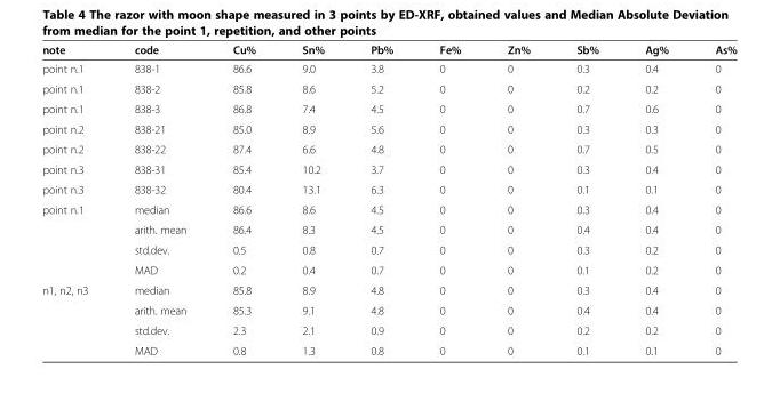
<table><thead><tr><td>note</td><td>code</td><td>Cu%</td><td>Sn%</td><td>Pb%</td><td>Fe%</td><td>Zn%</td><td>Sb%</td><td>Ag%</td><td>As%</td></tr></thead><tbody><tr><td>point n.1</td><td>838-1</td><td>86.6</td><td>9.0</td><td>3.8</td><td>0</td><td>0</td><td>0.3</td><td>0.4</td><td>0</td></tr><tr><td>point n.1</td><td>838-2</td><td>85.8</td><td>8.6</td><td>5.2</td><td>0</td><td>0</td><td>0.2</td><td>0.2</td><td>0</td></tr><tr><td>point n.1</td><td>838-3</td><td>86.8</td><td>7.4</td><td>4.5</td><td>0</td><td>0</td><td>0.7</td><td>0.6</td><td>0</td></tr><tr><td>point n.2</td><td>838-21</td><td>85.0</td><td>8.9</td><td>5.6</td><td>0</td><td>0</td><td>0.3</td><td>0.3</td><td>0</td></tr><tr><td>point n.2</td><td>838-22</td><td>87.4</td><td>6.6</td><td>4.8</td><td>0</td><td>0</td><td>0.7</td><td>0.5</td><td>0</td></tr><tr><td>point n.3</td><td>838-31</td><td>85.4</td><td>10.2</td><td>3.7</td><td>0</td><td>0</td><td>0.3</td><td>0.4</td><td>0</td></tr><tr><td>point n.3</td><td>838-32</td><td>80.4</td><td>13.1</td><td>6.3</td><td>0</td><td>0</td><td>0.1</td><td>0.1</td><td>0</td></tr><tr><td rowspan="4">point n.1</td><td>median</td><td>86.6</td><td>8.6</td><td>4.5</td><td>0</td><td>0</td><td>0.3</td><td>0.4</td><td>0</td></tr><tr><td>arith. mean</td><td>86.4</td><td>8.3</td><td>4.5</td><td>0</td><td>0</td><td>0.4</td><td>0.4</td><td>0</td></tr><tr><td>std.dev.</td><td>0.5</td><td>0.8</td><td>0.7</td><td>0</td><td>0</td><td>0.3</td><td>0.2</td><td>0</td></tr><tr><td>MAD</td><td>0.2</td><td>0.4</td><td>0.7</td><td>0</td><td>0</td><td>0.1</td><td>0.2</td><td>0</td></tr><tr><td rowspan="4">n1, n2, n3</td><td>median</td><td>85.8</td><td>8.9</td><td>4.8</td><td>0</td><td>0</td><td>0.3</td><td>0.4</td><td>0</td></tr><tr><td>arith. mean</td><td>85.3</td><td>9.1</td><td>4.8</td><td>0</td><td>0</td><td>0.4</td><td>0.4</td><td>0</td></tr><tr><td>std.dev.</td><td>2.3</td><td>2.1</td><td>0.9</td><td>0</td><td>0</td><td>0.2</td><td>0.2</td><td>0</td></tr><tr><td>MAD</td><td>0.8</td><td>1.3</td><td>0.8</td><td>0</td><td>0</td><td>0.1</td><td>0.1</td><td>0</td></tr></tbody></table>